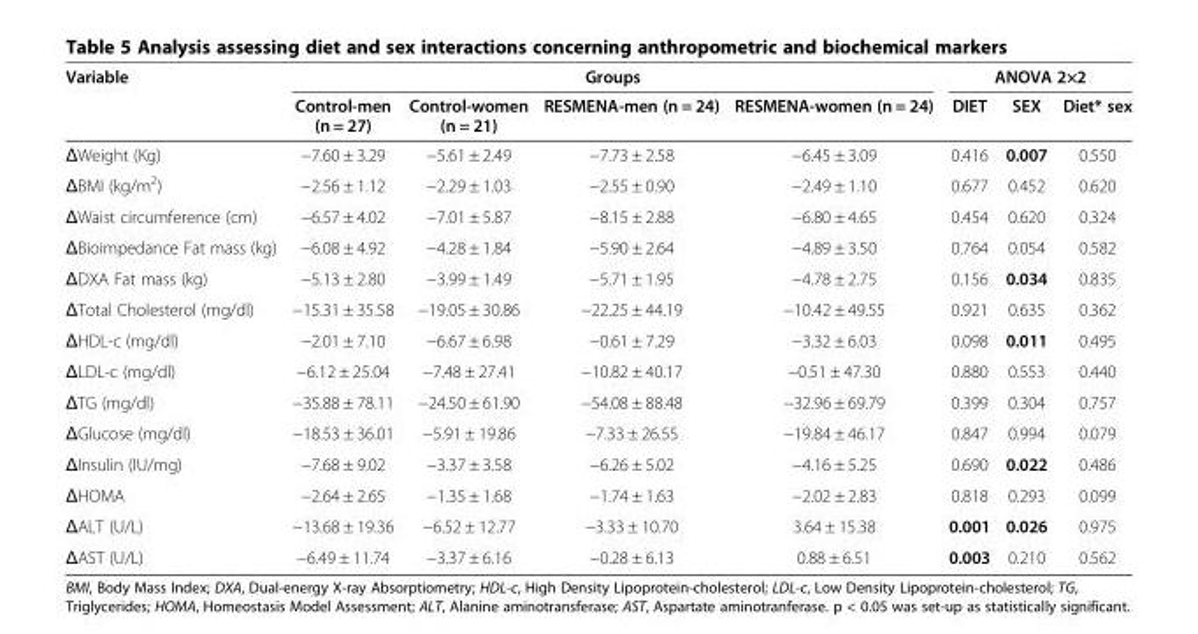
<table><thead><tr><td rowspan="2">Variable</td><td colspan="4">Groups</td><td colspan="3">ANOVA 2×2</td></tr><tr><td>Control-men (n = 27)</td><td>Control-women (n = 21)</td><td>RESMENA-men (n = 24)</td><td>RESMENA-women (n = 24)</td><td>DIET</td><td>SEX</td><td>Diet* sex</td></tr></thead><tbody><tr><td>ΔWeight (Kg)</td><td>−7.60 ± 3.29</td><td>−5.61 ± 2.49</td><td>−7.73 ± 2.58</td><td>−6.45 ± 3.09</td><td>0.416</td><td>0.007</td><td>0.550</td></tr><tr><td>ΔBMI (kg/m<sup>2</sup>)</td><td>−2.56 ± 1.12</td><td>−2.29 ± 1.03</td><td>−2.55 ± 0.90</td><td>−2.49 ± 1.10</td><td>0.677</td><td>0.452</td><td>0.620</td></tr><tr><td>ΔWaist circumference (cm)</td><td>−6.57 ± 4.02</td><td>−7.01 ± 5.87</td><td>−8.15 ± 2.88</td><td>−6.80 ± 4.65</td><td>0.454</td><td>0.620</td><td>0.324</td></tr><tr><td>ΔBioimpedance Fat mass (kg)</td><td>−6.08 ± 4.92</td><td>−4.28 ± 1.84</td><td>−5.90 ± 2.64</td><td>−4.89 ± 3.50</td><td>0.764</td><td>0.054</td><td>0.582</td></tr><tr><td>ΔDXA Fat mass (kg)</td><td>−5.13 ± 2.80</td><td>−3.99 ± 1.49</td><td>−5.71 ± 1.95</td><td>−4.78 ± 2.75</td><td>0.156</td><td>0.034</td><td>0.835</td></tr><tr><td>ΔTotal Cholesterol (mg/dl)</td><td>−15.31 ± 35.58</td><td>−19.05 ± 30.86</td><td>−22.25 ± 44.19</td><td>−10.42 ± 49.55</td><td>0.921</td><td>0.635</td><td>0.362</td></tr><tr><td>ΔHDL-c (mg/dl)</td><td>−2.01 ± 7.10</td><td>−6.67 ± 6.98</td><td>−0.61 ± 7.29</td><td>−3.32 ± 6.03</td><td>0.098</td><td>0.011</td><td>0.495</td></tr><tr><td>ΔLDL-c (mg/dl)</td><td>−6.12 ± 25.04</td><td>−7.48 ± 27.41</td><td>−10.82 ± 40.17</td><td>−0.51 ± 47.30</td><td>0.880</td><td>0.553</td><td>0.440</td></tr><tr><td>ΔTG (mg/dl)</td><td>−35.88 ± 78.11</td><td>−24.50 ± 61.90</td><td>−54.08 ± 88.48</td><td>−32.96 ± 69.79</td><td>0.399</td><td>0.304</td><td>0.757</td></tr><tr><td>ΔGlucose (mg/dl)</td><td>−18.53 ± 36.01</td><td>−5.91 ± 19.86</td><td>−7.33 ± 26.55</td><td>−19.84 ± 46.17</td><td>0.847</td><td>0.994</td><td>0.079</td></tr><tr><td>ΔInsulin (IU/mg)</td><td>−7.68 ± 9.02</td><td>−3.37 ± 3.58</td><td>−6.26 ± 5.02</td><td>−4.16 ± 5.25</td><td>0.690</td><td>0.022</td><td>0.486</td></tr><tr><td>ΔHOMA</td><td>−2.64 ± 2.65</td><td>−1.35 ± 1.68</td><td>−1.74 ± 1.63</td><td>−2.02 ± 2.83</td><td>0.818</td><td>0.293</td><td>0.099</td></tr><tr><td>ΔALT (U/L)</td><td>−13.68 ± 19.36</td><td>−6.52 ± 12.77</td><td>−3.33 ± 10.70</td><td>3.64 ± 15.38</td><td>0.001</td><td>0.026</td><td>0.975</td></tr><tr><td>ΔAST (U/L)</td><td>−6.49 ± 11.74</td><td>−3.37 ± 6.16</td><td>−0.28 ± 6.13</td><td>0.88 ± 6.51</td><td>0.003</td><td>0.210</td><td>0.562</td></tr></tbody></table>